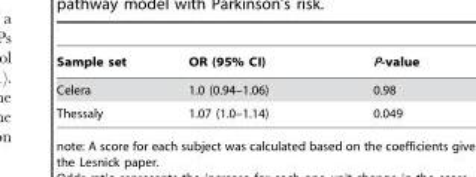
<table><thead><tr><td>Sample set</td><td>OR (95% CI)</td><td>P-value</td></tr></thead><tbody><tr><td>Celera</td><td>1.0 (0.94–1.06)</td><td>0.98</td></tr><tr><td>Thessaly</td><td>1.07 (1.0–1.14)</td><td>0.049</td></tr></tbody></table>